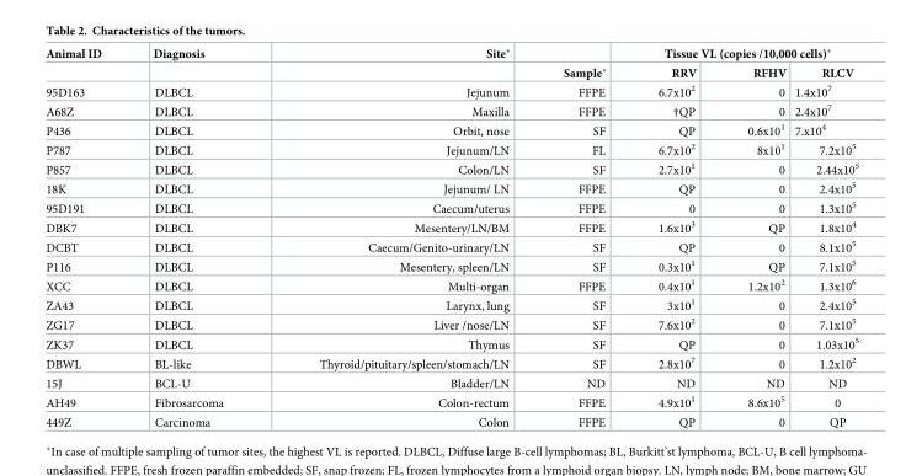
<table><thead><tr><td rowspan="2">Animal ID</td><td rowspan="2">Diagnosis</td><td rowspan="2">Site*</td><td rowspan="2">Sample*</td><td colspan="3">Tissue VL (copies /10,000 cells)*</td></tr><tr><td>RRV</td><td>RFHV</td><td>RLCV</td></tr></thead><tbody><tr><td>95D163</td><td>DLBCL</td><td>Jejunum</td><td>FFPE</td><td>6.7x10<sup>2</sup></td><td>0</td><td>1.4x10<sup>7</sup></td></tr><tr><td>A68Z</td><td>DLBCL</td><td>Maxilla</td><td>FFPE</td><td>†QP</td><td>0</td><td>2.4x10<sup>7</sup></td></tr><tr><td>P436</td><td>DLBCL</td><td>Orbit, nose</td><td>SF</td><td>QP</td><td>0.6x10<sup>1</sup></td><td>7.x10<sup>4</sup></td></tr><tr><td>P787</td><td>DLBCL</td><td>Jejunum/LN</td><td>FL</td><td>6.7x10<sup>2</sup></td><td>8x10<sup>1</sup></td><td>7.2x10<sup>5</sup></td></tr><tr><td>P857</td><td>DLBCL</td><td>Colon/LN</td><td>SF</td><td>2.7x10<sup>1</sup></td><td>0</td><td>2.44x10<sup>5</sup></td></tr><tr><td>18K</td><td>DLBCL</td><td>Jejunum/ LN</td><td>FFPE</td><td>QP</td><td>0</td><td>2.4x10<sup>5</sup></td></tr><tr><td>95D191</td><td>DLBCL</td><td>Caecum/uterus</td><td>FFPE</td><td>0</td><td>0</td><td>1.3x10<sup>5</sup></td></tr><tr><td>DBK7</td><td>DLBCL</td><td>Mesentery/LN/BM</td><td>FFPE</td><td>1.6x10<sup>3</sup></td><td>QP</td><td>1.8x10<sup>4</sup></td></tr><tr><td>DCBT</td><td>DLBCL</td><td>Caecum/Genito-urinary/LN</td><td>SF</td><td>QP</td><td>0</td><td>8.1x10<sup>5</sup></td></tr><tr><td>P116</td><td>DLBCL</td><td>Mesentery, spleen/LN</td><td>SF</td><td>0.3x10<sup>1</sup></td><td>QP</td><td>7.1x10<sup>5</sup></td></tr><tr><td>XCC</td><td>DLBCL</td><td>Multi-organ</td><td>FFPE</td><td>0.4x10<sup>1</sup></td><td>1.2x10<sup>2</sup></td><td>1.3x10<sup>6</sup></td></tr><tr><td>ZA43</td><td>DLBCL</td><td>Larynx, lung</td><td>SF</td><td>3x10<sup>1</sup></td><td>0</td><td>2.4x10<sup>5</sup></td></tr><tr><td>ZG17</td><td>DLBCL</td><td>Liver /nose/LN</td><td>SF</td><td>7.6x10<sup>2</sup></td><td>0</td><td>7.1x10<sup>5</sup></td></tr><tr><td>ZK37</td><td>DLBCL</td><td>Thymus</td><td>SF</td><td>QP</td><td>0</td><td>1.03x10<sup>5</sup></td></tr><tr><td>DBWL</td><td>BL-like</td><td>Thyroid/pituitary/spleen/stomach/LN</td><td>SF</td><td>2.8x10<sup>7</sup></td><td>0</td><td>1.2x10<sup>2</sup></td></tr><tr><td>15J</td><td>BCL-U</td><td>Bladder/LN</td><td>ND</td><td>ND</td><td>ND</td><td>ND</td></tr><tr><td>AH49</td><td>Fibrosarcoma</td><td>Colon-rectum</td><td>FFPE</td><td>4.9x10<sup>1</sup></td><td>8.6x10<sup>5</sup></td><td>0</td></tr><tr><td>449Z</td><td>Carcinoma</td><td>Colon</td><td>FFPE</td><td>QP</td><td>0</td><td>QP</td></tr></tbody></table>